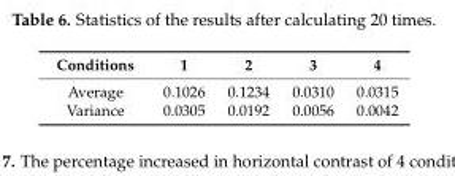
<table><thead><tr><td>Conditions</td><td>1</td><td>2</td><td>3</td><td>4</td></tr></thead><tbody><tr><td>Average</td><td>0.1026</td><td>0.1234</td><td>0.0310</td><td>0.0315</td></tr><tr><td>Variance</td><td>0.0305</td><td>0.0192</td><td>0.0056</td><td>0.0042</td></tr></tbody></table>